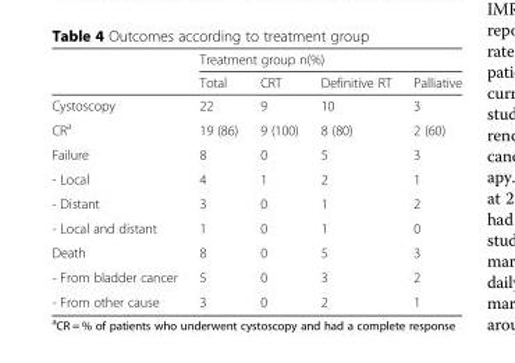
<table><thead><tr><td rowspan="2"></td><td colspan="4">Treatment group n(%)</td></tr><tr><td>Total</td><td>CRT</td><td>Definitive RT</td><td>Palliative</td></tr></thead><tbody><tr><td>Cystoscopy</td><td>22</td><td>9</td><td>10</td><td>3</td></tr><tr><td>CR<sup>a</sup></td><td>19 (86)</td><td>9 (100)</td><td>8 (80)</td><td>2 (60)</td></tr><tr><td>Failure</td><td>8</td><td>0</td><td>5</td><td>3</td></tr><tr><td>- Local</td><td>4</td><td>1</td><td>2</td><td>1</td></tr><tr><td>- Distant</td><td>3</td><td>0</td><td>1</td><td>2</td></tr><tr><td>- Local and distant</td><td>1</td><td>0</td><td>1</td><td>0</td></tr><tr><td>Death</td><td>8</td><td>0</td><td>5</td><td>3</td></tr><tr><td>- From bladder cancer</td><td>5</td><td>0</td><td>3</td><td>2</td></tr><tr><td>- From other cause</td><td>3</td><td>0</td><td>2</td><td>1</td></tr></tbody></table>